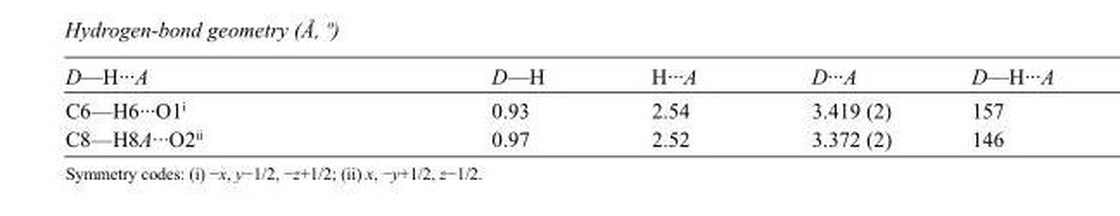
<table><tbody><tr><td>D—H···A</td><td>D—H</td><td>H···A</td><td>D···A</td><td>D—H···A</td></tr><tr><td>C6—H6···O1<sup>i</sup></td><td>0.93</td><td>2.54</td><td>3.419 (2)</td><td>157</td></tr><tr><td>C8—H8A···O2<sup>ii</sup></td><td>0.97</td><td>2.52</td><td>3.372 (2)</td><td>146</td></tr></tbody></table>